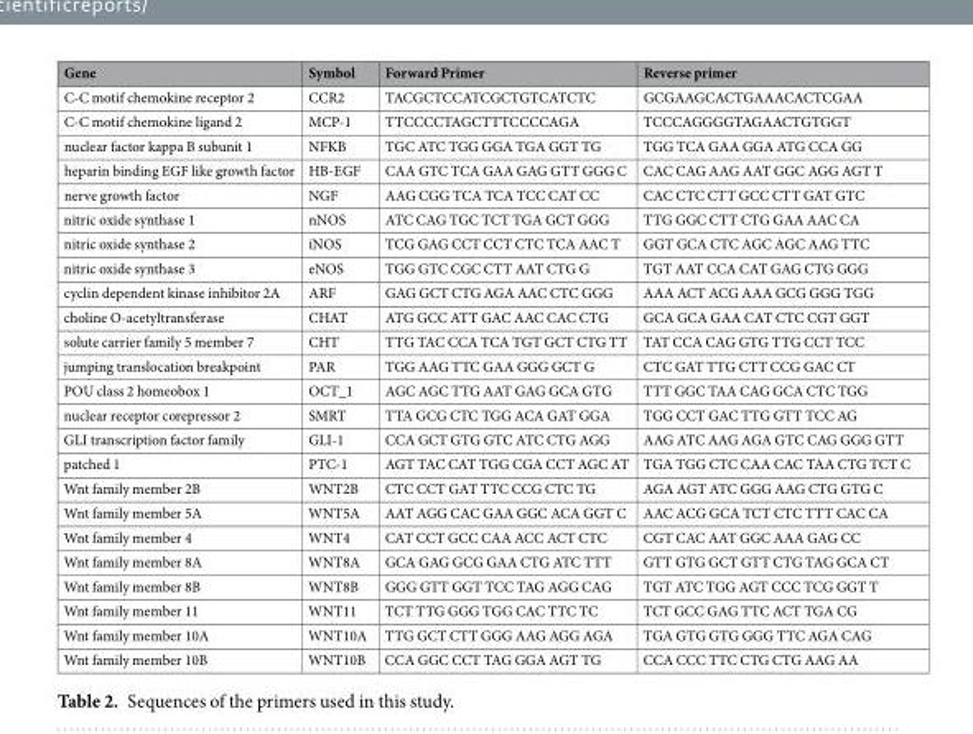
<table><thead><tr><td>Gene</td><td>Symbol</td><td>Forward Primer</td><td>Reverse primer</td></tr></thead><tbody><tr><td>C-C motif chemokine receptor 2</td><td>CCR2</td><td>TACGCTCCATCGCTGTCATCTC</td><td>GCGAAGCACTGAAACACTCGAA</td></tr><tr><td>C-C motif chemokine ligand 2</td><td>MCP-1</td><td>TTCCCCTAGCTTTCCCCAGA</td><td>TCCCAGGGGTAGAACTGTGGT</td></tr><tr><td>nuclear factor kappa B subunit 1</td><td>NFKB</td><td>TGC ATC TGG GGA TGA GGT TG</td><td>TGG TCA GAA GGA ATG CCA GG</td></tr><tr><td>heparin binding EGF like growth factor</td><td>HB-EGF</td><td>CAA GTC TCA GAA GAG GTT GGG C</td><td>CAC CAG AAG AAT GGC AGG AGT T</td></tr><tr><td>nerve growth factor</td><td>NGF</td><td>AAG CGG TCA TCA TCC CAT CC</td><td>CAC CTC CTT GCC CTT GAT GTC</td></tr><tr><td>nitric oxide synthase 1</td><td>nNOS</td><td>ATC CAG TGC TCT TGA GCT GGG</td><td>TTG GGC CTT CTG GAA AAC CA</td></tr><tr><td>nitric oxide synthase 2</td><td>iNOS</td><td>TCG GAG CCT CCT CTC TCA AAC T</td><td>GGT GCA CTC AGC AGC AAG TTC</td></tr><tr><td>nitric oxide synthase 3</td><td>eNOS</td><td>TGG GTC CGC CTT AAT CTG G</td><td>TGT AAT CCA CAT GAG CTG GGG</td></tr><tr><td>cyclin dependent kinase inhibitor 2A</td><td>ARF</td><td>GAG GCT CTG AGA AAC CTC GGG</td><td>AAA ACT ACG AAA GCG GGG TGG</td></tr><tr><td>choline O-acetyltransferase</td><td>CHAT</td><td>ATG GCC ATT GAC AAC CAC CTG</td><td>GCA GCA GAA CAT CTC CGT GGT</td></tr><tr><td>solute carrier family 5 member 7</td><td>CHT</td><td>TTG TAC CCA TCA TGT GCT CTG TT</td><td>TAT CCA CAG GTG TTG CCT TCC</td></tr><tr><td>jumping translocation breakpoint</td><td>PAR</td><td>TGG AAG TTC GAA GGG GCT G</td><td>CTC GAT TTG CTT CCG GAC CT</td></tr><tr><td>POU class 2 homeobox 1</td><td>OCT_1</td><td>AGC AGC TTG AAT GAG GCA GTG</td><td>TTT GGC TAA CAG GCA CTC TGG</td></tr><tr><td>nuclear receptor corepressor 2</td><td>SMRT</td><td>TTA GCG CTC TGG ACA GAT GGA</td><td>TGG CCT GAC TTG GTT TCC AG</td></tr><tr><td>GLI transcription factor family</td><td>GLI-1</td><td>CCA GCT GTG GTC ATC CTG AGG</td><td>AAG ATC AAG AGA GTC CAG GGG GTT</td></tr><tr><td>patched 1</td><td>PTC-1</td><td>AGT TAC CAT TGG CGA CCT AGC AT</td><td>TGA TGG CTC CAA CAC TAA CTG TCT C</td></tr><tr><td>Wnt family member 2B</td><td>WNT2B</td><td>CTC CCT GAT TTC CCG CTC TG</td><td>AGA AGT ATC GGG AAG CTG GTG C</td></tr><tr><td>Wnt family member 5A</td><td>WNT5A</td><td>AAT AGG CAC GAA GGC ACA GGT C</td><td>AAC ACG GCA TCT CTC TTT CAC CA</td></tr><tr><td>Wnt family member 4</td><td>WNT4</td><td>CAT CCT GCC CAA ACC ACT CTC</td><td>CGT CAC AAT GGC AAA GAG CC</td></tr><tr><td>Wnt family member 8A</td><td>WNT8A</td><td>GCA GAG GCG GAA CTG ATC TTT</td><td>GTT GTG GCT GTT CTG TAG GCA CT</td></tr><tr><td>Wnt family member 8B</td><td>WNT8B</td><td>GGG GTT GGT TCC TAG AGG CAG</td><td>TGT ATC TGG AGT CCC TCG GGT T</td></tr><tr><td>Wnt family member 11</td><td>WNT11</td><td>TCT TTG GGG TGG CAC TTC TC</td><td>TCT GCC GAG TTC ACT TGA CG</td></tr><tr><td>Wnt family member 10A</td><td>WNT10A</td><td>TTG GCT CTT GGG AAG AGG AGA</td><td>TGA GTG GTG GGG TTC AGA CAG</td></tr><tr><td>Wnt family member 10B</td><td>WNT10B</td><td>CCA GGC CCT TAG GGA AGT TG</td><td>CCA CCC TTC CTG CTG AAG AA</td></tr></tbody></table>